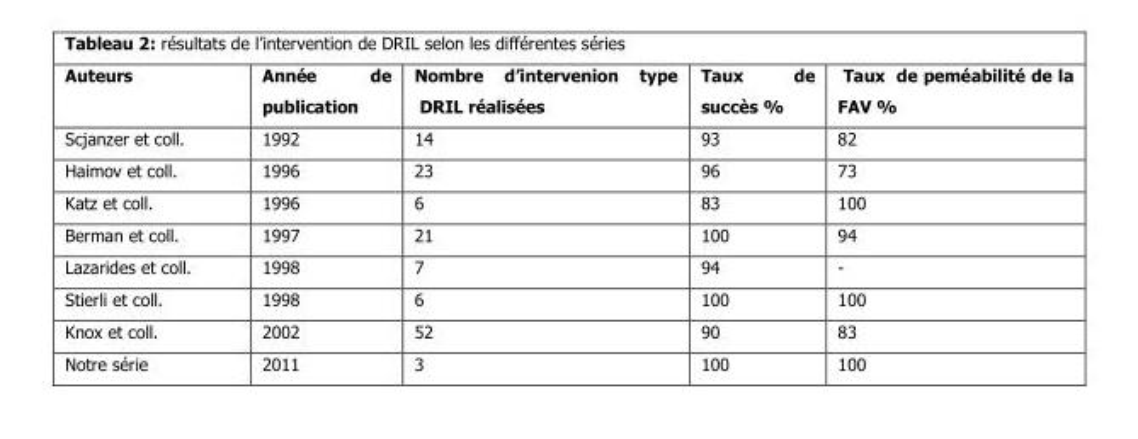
<table><thead><tr><td>Auteurs</td><td>Année de publication</td><td>Nombre d’intervenion type DRIL réalisées</td><td>Taux de succès %</td><td>Taux de peméabilité de la FAV %</td></tr></thead><tbody><tr><td>Scjanzer et coll.</td><td>1992</td><td>14</td><td>93</td><td>82</td></tr><tr><td>Haimov et coll.</td><td>1996</td><td>23</td><td>96</td><td>73</td></tr><tr><td>Katz et coll.</td><td>1996</td><td>6</td><td>83</td><td>100</td></tr><tr><td>Berman et coll.</td><td>1997</td><td>21</td><td>100</td><td>94</td></tr><tr><td>Lazarides et coll.</td><td>1998</td><td>7</td><td>94</td><td>-</td></tr><tr><td>Stierli et coll.</td><td>1998</td><td>6</td><td>100</td><td>100</td></tr><tr><td>Knox et coll.</td><td>2002</td><td>52</td><td>90</td><td>83</td></tr><tr><td>Notre série</td><td>2011</td><td>3</td><td>100</td><td>100</td></tr></tbody></table>